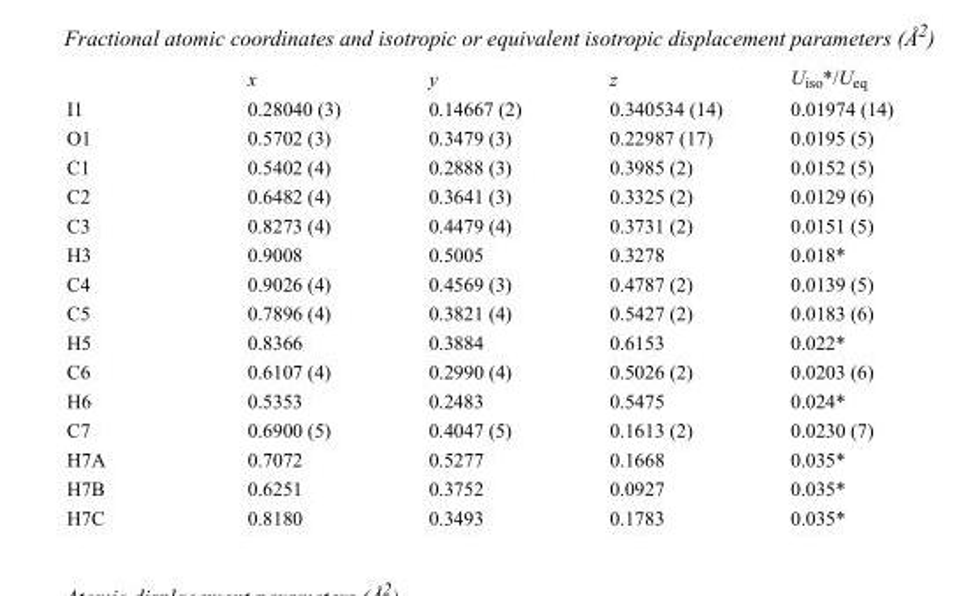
<table><thead><tr><td></td><td>x</td><td>y</td><td>z</td><td>U<sub>iso</sub>*/U<sub>eq</sub></td></tr></thead><tbody><tr><td>I1</td><td>0.28040 (3)</td><td>0.14667 (2)</td><td>0.340534 (14)</td><td>0.01974 (14)</td></tr><tr><td>O1</td><td>0.5702 (3)</td><td>0.3479 (3)</td><td>0.22987 (17)</td><td>0.0195 (5)</td></tr><tr><td>C1</td><td>0.5402 (4)</td><td>0.2888 (3)</td><td>0.3985 (2)</td><td>0.0152 (5)</td></tr><tr><td>C2</td><td>0.6482 (4)</td><td>0.3641 (3)</td><td>0.3325 (2)</td><td>0.0129 (6)</td></tr><tr><td>C3</td><td>0.8273 (4)</td><td>0.4479 (4)</td><td>0.3731 (2)</td><td>0.0151 (5)</td></tr><tr><td>H3</td><td>0.9008</td><td>0.5005</td><td>0.3278</td><td>0.018*</td></tr><tr><td>C4</td><td>0.9026 (4)</td><td>0.4569 (3)</td><td>0.4787 (2)</td><td>0.0139 (5)</td></tr><tr><td>C5</td><td>0.7896 (4)</td><td>0.3821 (4)</td><td>0.5427 (2)</td><td>0.0183 (6)</td></tr><tr><td>H5</td><td>0.8366</td><td>0.3884</td><td>0.6153</td><td>0.022*</td></tr><tr><td>C6</td><td>0.6107 (4)</td><td>0.2990 (4)</td><td>0.5026 (2)</td><td>0.0203 (6)</td></tr><tr><td>H6</td><td>0.5353</td><td>0.2483</td><td>0.5475</td><td>0.024*</td></tr><tr><td>C7</td><td>0.6900 (5)</td><td>0.4047 (5)</td><td>0.1613 (2)</td><td>0.0230 (7)</td></tr><tr><td>H7A</td><td>0.7072</td><td>0.5277</td><td>0.1668</td><td>0.035*</td></tr><tr><td>H7B</td><td>0.6251</td><td>0.3752</td><td>0.0927</td><td>0.035*</td></tr><tr><td>H7C</td><td>0.8180</td><td>0.3493</td><td>0.1783</td><td>0.035*</td></tr></tbody></table>